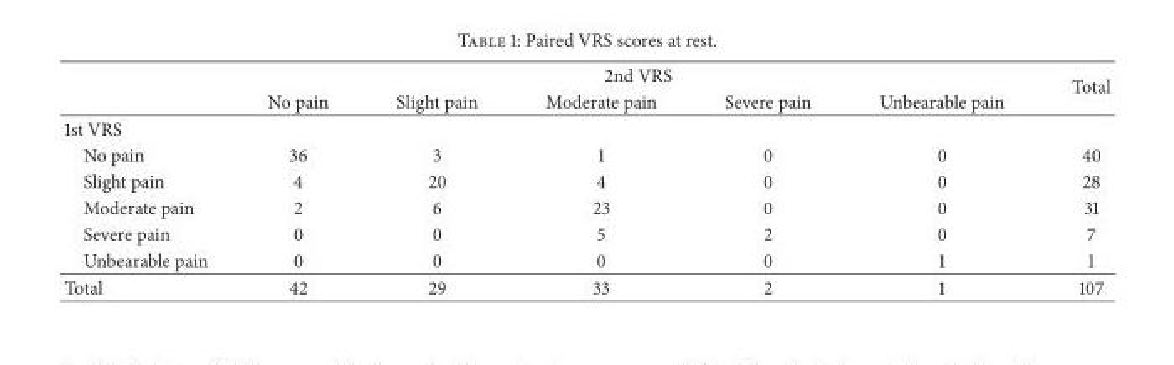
<table><thead><tr><td rowspan="2"></td><td colspan="5">2nd VRS</td><td rowspan="2">Total</td></tr><tr><td>No pain</td><td>Slight pain</td><td>Moderate pain</td><td>Severe pain</td><td>Unbearable pain</td></tr></thead><tbody><tr><td colspan="7">1st VRS</td></tr><tr><td>No pain</td><td>36</td><td>3</td><td>1</td><td>0</td><td>0</td><td>40</td></tr><tr><td>Slight pain</td><td>4</td><td>20</td><td>4</td><td>0</td><td>0</td><td>28</td></tr><tr><td>Moderate pain</td><td>2</td><td>6</td><td>23</td><td>0</td><td>0</td><td>31</td></tr><tr><td>Severe pain</td><td>0</td><td>0</td><td>5</td><td>2</td><td>0</td><td>7</td></tr><tr><td>Unbearable pain</td><td>0</td><td>0</td><td>0</td><td>0</td><td>1</td><td>1</td></tr><tr><td>Total</td><td>42</td><td>29</td><td>33</td><td>2</td><td>1</td><td>107</td></tr></tbody></table>